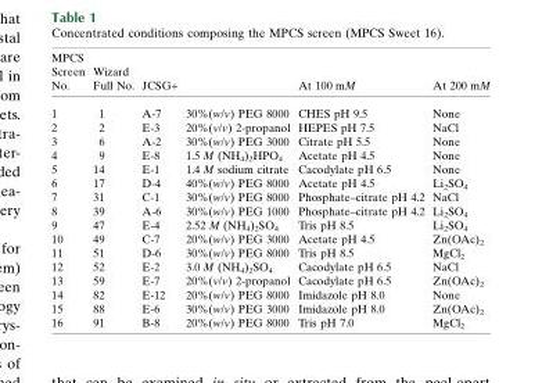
<table><thead><tr><td>MPCS Screen No.</td><td>Wizard Full No.</td><td>JCSG+</td><td></td><td>At 100 mM</td><td>At 200 mM</td></tr></thead><tbody><tr><td>1</td><td>1</td><td>A-7</td><td>30%(w/v) PEG 8000</td><td>CHES pH 9.5</td><td>None</td></tr><tr><td>2</td><td>2</td><td>E-3</td><td>20%(v/v) 2-propanol</td><td>HEPES pH 7.5</td><td>NaCl</td></tr><tr><td>3</td><td>6</td><td>A-2</td><td>30%(w/v) PEG 3000</td><td>Citrate pH 5.5</td><td>None</td></tr><tr><td>4</td><td>9</td><td>E-8</td><td>1.5 M (NH<sub>4</sub>)<sub>2</sub>HPO<sub>4</sub></td><td>Acetate pH 4.5</td><td>None</td></tr><tr><td>5</td><td>14</td><td>E-1</td><td>1.4 M sodium citrate</td><td>Cacodylate pH 6.5</td><td>None</td></tr><tr><td>6</td><td>17</td><td>D-4</td><td>40%(w/v) PEG 8000</td><td>Acetate pH 4.5</td><td>Li<sub>2</sub>SO<sub>4</sub></td></tr><tr><td>7</td><td>31</td><td>C-1</td><td>30%(w/v) PEG 8000</td><td>Phosphate–citrate pH 4.2</td><td>NaCl</td></tr><tr><td>8</td><td>39</td><td>A-6</td><td>30%(w/v) PEG 1000</td><td>Phosphate–citrate pH 4.2</td><td>Li<sub>2</sub>SO<sub>4</sub></td></tr><tr><td>9</td><td>47</td><td>E-4</td><td>2.52 M (NH<sub>4</sub>)<sub>2</sub>SO<sub>4</sub></td><td>Tris pH 8.5</td><td>Li<sub>2</sub>SO<sub>4</sub></td></tr><tr><td>10</td><td>49</td><td>C-7</td><td>20%(w/v) PEG 3000</td><td>Acetate pH 4.5</td><td>Zn(OAc)<sub>2</sub></td></tr><tr><td>11</td><td>51</td><td>D-6</td><td>30%(w/v) PEG 8000</td><td>Tris pH 8.5</td><td>MgCl<sub>2</sub></td></tr><tr><td>12</td><td>52</td><td>E-2</td><td>3.0 M (NH<sub>4</sub>)<sub>2</sub>SO<sub>4</sub></td><td>Cacodylate pH 6.5</td><td>NaCl</td></tr><tr><td>13</td><td>59</td><td>E-7</td><td>20%(v/v) 2-propanol</td><td>Cacodylate pH 6.5</td><td>Zn(OAc)<sub>2</sub></td></tr><tr><td>14</td><td>82</td><td>E-12</td><td>20%(w/v) PEG 8000</td><td>Imidazole pH 8.0</td><td>None</td></tr><tr><td>15</td><td>88</td><td>E-6</td><td>30%(w/v) PEG 3000</td><td>Imidazole pH 8.0</td><td>Zn(OAc)<sub>2</sub></td></tr><tr><td>16</td><td>91</td><td>B-8</td><td>20%(w/v) PEG 8000</td><td>Tris pH 7.0</td><td>MgCl<sub>2</sub></td></tr></tbody></table>